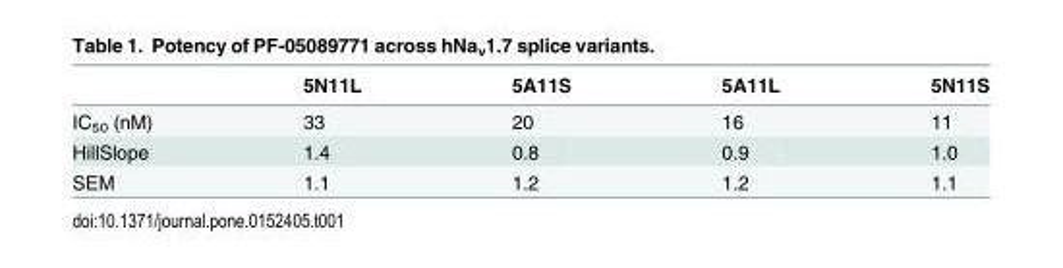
<table><thead><tr><td></td><td>5N11L</td><td>5A11S</td><td>5A11L</td><td>5N11S</td></tr></thead><tbody><tr><td>IC<sub>50</sub> (nM)</td><td>33</td><td>20</td><td>16</td><td>11</td></tr><tr><td>HillSlope</td><td>1.4</td><td>0.8</td><td>0.9</td><td>1.0</td></tr><tr><td>SEM</td><td>1.1</td><td>1.2</td><td>1.2</td><td>1.1</td></tr></tbody></table>